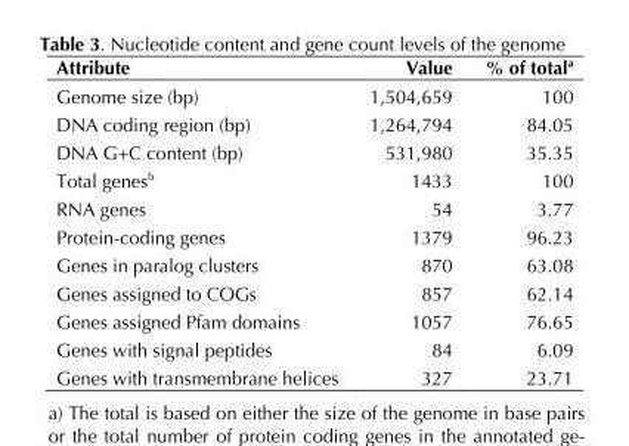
<table><thead><tr><td>Attribute</td><td>Value</td><td>% of total<sup>a</sup></td></tr></thead><tbody><tr><td>Genome size (bp)</td><td>1,504,659</td><td>100</td></tr><tr><td>DNA coding region (bp)</td><td>1,264,794</td><td>84.05</td></tr><tr><td>DNA G+C content (bp)</td><td>531,980</td><td>35.35</td></tr><tr><td>Total genes<sup>b</sup></td><td>1433</td><td>100</td></tr><tr><td>RNA genes</td><td>54</td><td>3.77</td></tr><tr><td>Protein-coding genes</td><td>1379</td><td>96.23</td></tr><tr><td>Genes in paralog clusters</td><td>870</td><td>63.08</td></tr><tr><td>Genes assigned to COGs</td><td>857</td><td>62.14</td></tr><tr><td>Genes assigned Pfam domains</td><td>1057</td><td>76.65</td></tr><tr><td>Genes with signal peptides</td><td>84</td><td>6.09</td></tr><tr><td>Genes with transmembrane helices</td><td>327</td><td>23.71</td></tr></tbody></table>